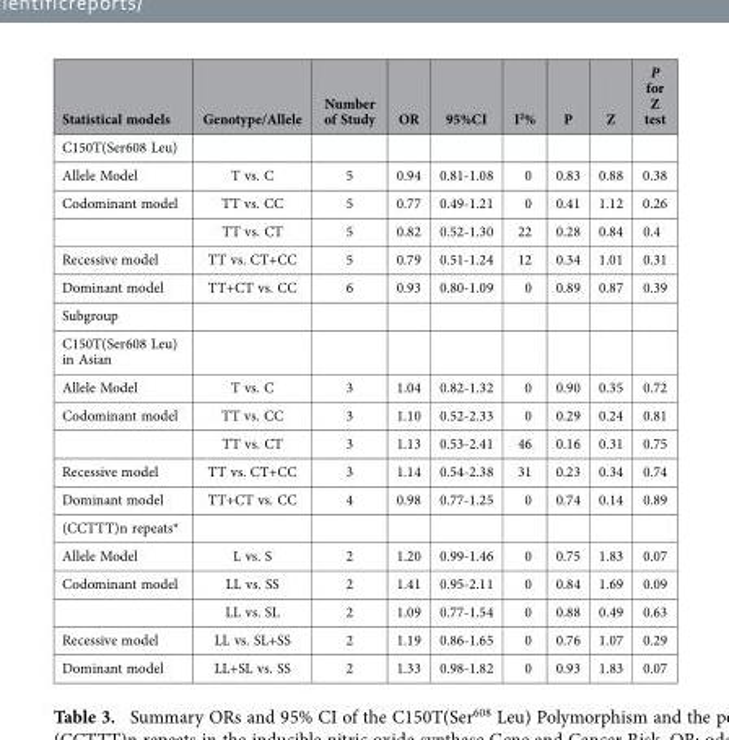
<table><thead><tr><td>Statistical models</td><td>Genotype/Allele</td><td>Number of Study</td><td>OR</td><td>95%CI</td><td>I<sup>2</sup>%</td><td>P</td><td>Z</td><td>P for Z test</td></tr></thead><tbody><tr><td colspan="9">C150T(Ser608 Leu)</td></tr><tr><td>Allele Model</td><td>T vs. C</td><td>5</td><td>0.94</td><td>0.81-1.08</td><td>0</td><td>0.83</td><td>0.88</td><td>0.38</td></tr><tr><td rowspan="2">Codominant model</td><td>TT vs. CC</td><td>5</td><td>0.77</td><td>0.49-1.21</td><td>0</td><td>0.41</td><td>1.12</td><td>0.26</td></tr><tr><td>TT vs. CT</td><td>5</td><td>0.82</td><td>0.52-1.30</td><td>22</td><td>0.28</td><td>0.84</td><td>0.4</td></tr><tr><td>Recessive model</td><td>TT vs. CT+CC</td><td>5</td><td>0.79</td><td>0.51-1.24</td><td>12</td><td>0.34</td><td>1.01</td><td>0.31</td></tr><tr><td>Dominant model</td><td>TT+CT vs. CC</td><td>6</td><td>0.93</td><td>0.80-1.09</td><td>0</td><td>0.89</td><td>0.87</td><td>0.39</td></tr><tr><td colspan="9">Subgroup</td></tr><tr><td colspan="9">C150T(Ser608 Leu) in Asian</td></tr><tr><td>Allele Model</td><td>T vs. C</td><td>3</td><td>1.04</td><td>0.82-1.32</td><td>0</td><td>0.90</td><td>0.35</td><td>0.72</td></tr><tr><td rowspan="2">Codominant model</td><td>TT vs. CC</td><td>3</td><td>1.10</td><td>0.52-2.33</td><td>0</td><td>0.29</td><td>0.24</td><td>0.81</td></tr><tr><td>TT vs. CT</td><td>3</td><td>1.13</td><td>0.53-2.41</td><td>46</td><td>0.16</td><td>0.31</td><td>0.75</td></tr><tr><td>Recessive model</td><td>TT vs. CT+CC</td><td>3</td><td>1.14</td><td>0.54-2.38</td><td>31</td><td>0.23</td><td>0.34</td><td>0.74</td></tr><tr><td>Dominant model</td><td>TT+CT vs. CC</td><td>4</td><td>0.98</td><td>0.77-1.25</td><td>0</td><td>0.74</td><td>0.14</td><td>0.89</td></tr><tr><td colspan="9">(CCTTT)n repeats*</td></tr><tr><td>Allele Model</td><td>L vs. S</td><td>2</td><td>1.20</td><td>0.99-1.46</td><td>0</td><td>0.75</td><td>1.83</td><td>0.07</td></tr><tr><td rowspan="2">Codominant model</td><td>LL vs. SS</td><td>2</td><td>1.41</td><td>0.95-2.11</td><td>0</td><td>0.84</td><td>1.69</td><td>0.09</td></tr><tr><td>LL vs. SL</td><td>2</td><td>1.09</td><td>0.77-1.54</td><td>0</td><td>0.88</td><td>0.49</td><td>0.63</td></tr><tr><td>Recessive model</td><td>LL vs. SL+SS</td><td>2</td><td>1.19</td><td>0.86-1.65</td><td>0</td><td>0.76</td><td>1.07</td><td>0.29</td></tr><tr><td>Dominant model</td><td>LL+SL vs. SS</td><td>2</td><td>1.33</td><td>0.98-1.82</td><td>0</td><td>0.93</td><td>1.83</td><td>0.07</td></tr></tbody></table>